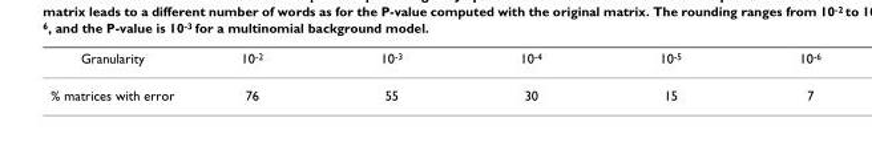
<table><thead><tr><td>Granularity</td><td>10<sup>-2</sup></td><td>10<sup>-3</sup></td><td>10<sup>-4</sup></td><td>10<sup>-5</sup></td><td>10<sup>-6</sup></td></tr></thead><tbody><tr><td>% matrices with error</td><td>76</td><td>55</td><td>30</td><td>15</td><td>7</td></tr></tbody></table>